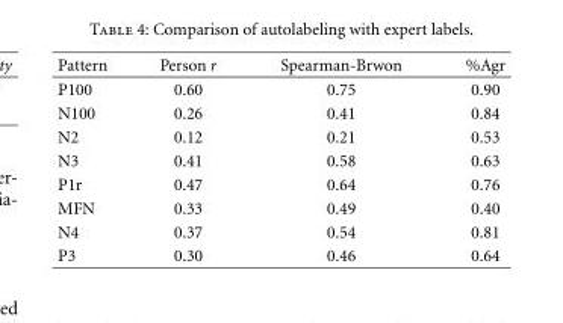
<table><thead><tr><td>Pattern</td><td>Person r</td><td>Spearman-Brwon</td><td>%Agr</td></tr></thead><tbody><tr><td>P100</td><td>0.60</td><td>0.75</td><td>0.90</td></tr><tr><td>N100</td><td>0.26</td><td>0.41</td><td>0.84</td></tr><tr><td>N2</td><td>0.12</td><td>0.21</td><td>0.53</td></tr><tr><td>N3</td><td>0.41</td><td>0.58</td><td>0.63</td></tr><tr><td>P1r</td><td>0.47</td><td>0.64</td><td>0.76</td></tr><tr><td>MFN</td><td>0.33</td><td>0.49</td><td>0.40</td></tr><tr><td>N4</td><td>0.37</td><td>0.54</td><td>0.81</td></tr><tr><td>P3</td><td>0.30</td><td>0.46</td><td>0.64</td></tr></tbody></table>